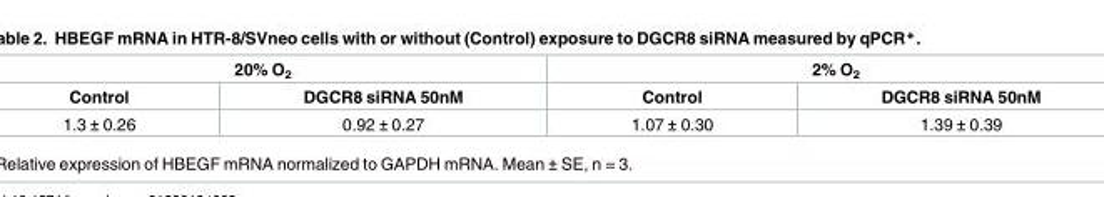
<table><thead><tr><td colspan="2">20% O<sub>2</sub></td><td colspan="2">2% O<sub>2</sub></td></tr><tr><td>Control</td><td>DGCR8 siRNA 50nM</td><td>Control</td><td>DGCR8 siRNA 50nM</td></tr></thead><tbody><tr><td>1.3 ± 0.26</td><td>0.92 ± 0.27</td><td>1.07 ± 0.30</td><td>1.39 ± 0.39</td></tr></tbody></table>